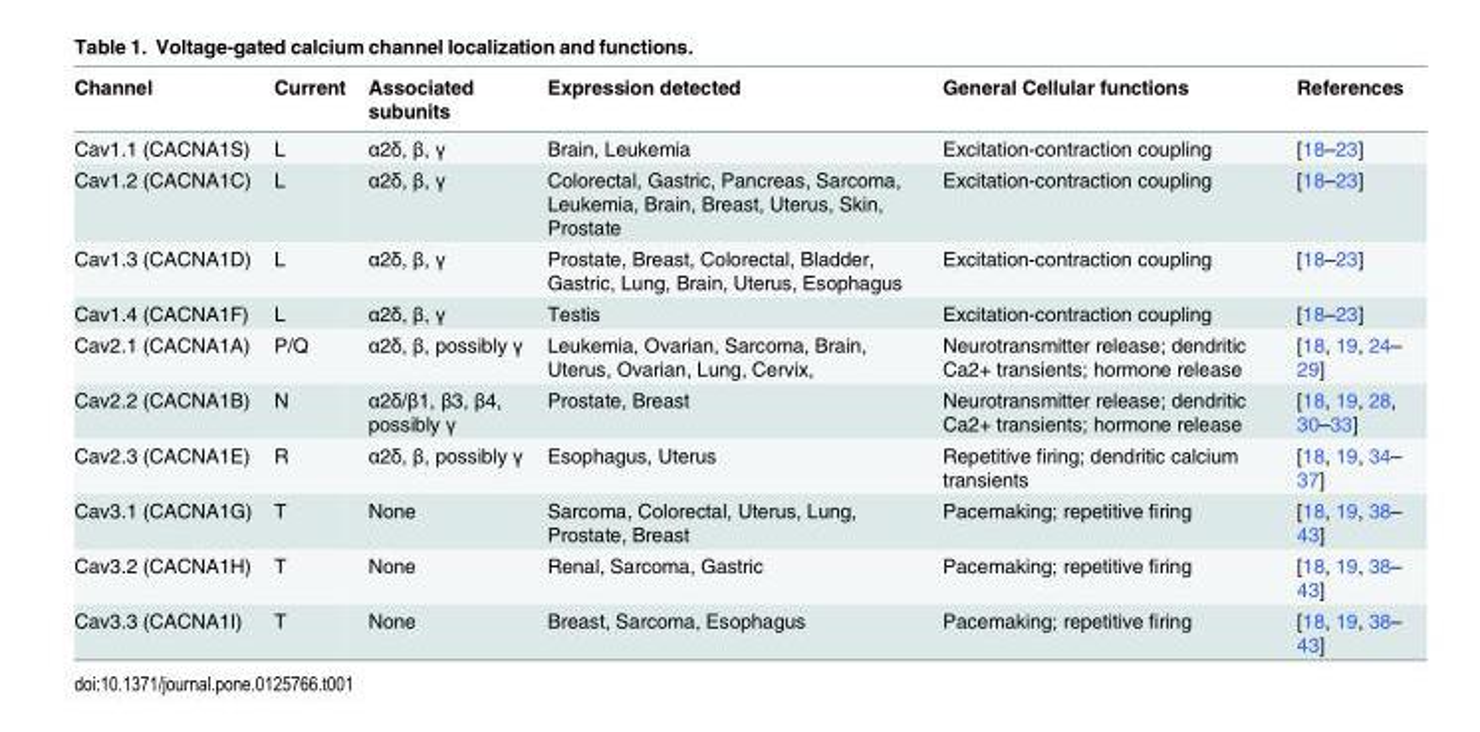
<table><thead><tr><td>Channel</td><td>Current</td><td>Associated subunits</td><td>Expression detected</td><td>General Cellular functions</td><td>References</td></tr></thead><tbody><tr><td>Cav1.1 (CACNA1S)</td><td>L</td><td>α2δ, β, γ</td><td>Brain, Leukemia</td><td>Excitation-contraction coupling</td><td>[18–23]</td></tr><tr><td>Cav1.2 (CACNA1C)</td><td>L</td><td>α2δ, β, γ</td><td>Colorectal, Gastric, Pancreas, Sarcoma, Leukemia, Brain, Breast, Uterus, Skin, Prostate</td><td>Excitation-contraction coupling</td><td>[18–23]</td></tr><tr><td>Cav1.3 (CACNA1D)</td><td>L</td><td>α2δ, β, γ</td><td>Prostate, Breast, Colorectal, Bladder, Gastric, Lung, Brain, Uterus, Esophagus</td><td>Excitation-contraction coupling</td><td>[18–23]</td></tr><tr><td>Cav1.4 (CACNA1F)</td><td>L</td><td>α2δ, β, γ</td><td>Testis</td><td>Excitation-contraction coupling</td><td>[18–23]</td></tr><tr><td>Cav2.1 (CACNA1A)</td><td>P/Q</td><td>α2δ, β, possibly γ</td><td>Leukemia, Ovarian, Sarcoma, Brain, Uterus, Ovarian, Lung, Cervix,</td><td>Neurotransmitter release; dendritic Ca2+ transients; hormone release</td><td>[18, 19, 24– 29]</td></tr><tr><td>Cav2.2 (CACNA1B)</td><td>N</td><td>α2δ/β1, β3, β4, possibly γ</td><td>Prostate, Breast</td><td>Neurotransmitter release; dendritic Ca2+ transients; hormone release</td><td>[18, 19, 28, 30–33]</td></tr><tr><td>Cav2.3 (CACNA1E)</td><td>R</td><td>α2δ, β, possibly γ</td><td>Esophagus, Uterus</td><td>Repetitive firing; dendritic calcium transients</td><td>[18, 19, 34– 37]</td></tr><tr><td>Cav3.1 (CACNA1G)</td><td>T</td><td>None</td><td>Sarcoma, Colorectal, Uterus, Lung, Prostate, Breast</td><td>Pacemaking; repetitive firing</td><td>[18, 19, 38– 43]</td></tr><tr><td>Cav3.2 (CACNA1H)</td><td>T</td><td>None</td><td>Renal, Sarcoma, Gastric</td><td>Pacemaking; repetitive firing</td><td>[18, 19, 38– 43]</td></tr><tr><td>Cav3.3 (CACNA1I)</td><td>T</td><td>None</td><td>Breast, Sarcoma, Esophagus</td><td>Pacemaking; repetitive firing</td><td>[18, 19, 38– 43]</td></tr></tbody></table>